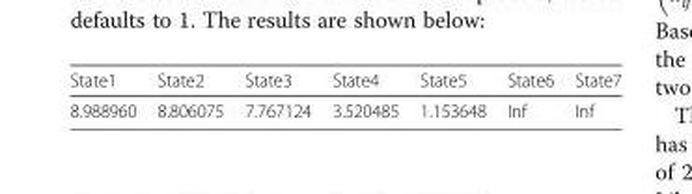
<table><thead><tr><td>State1</td><td>State2</td><td>State3</td><td>State4</td><td>State5</td><td>State6</td><td>State7</td></tr></thead><tbody><tr><td>8.988960</td><td>8.806075</td><td>7.767124</td><td>3.520485</td><td>1.153648</td><td>Inf</td><td>Inf</td></tr></tbody></table>